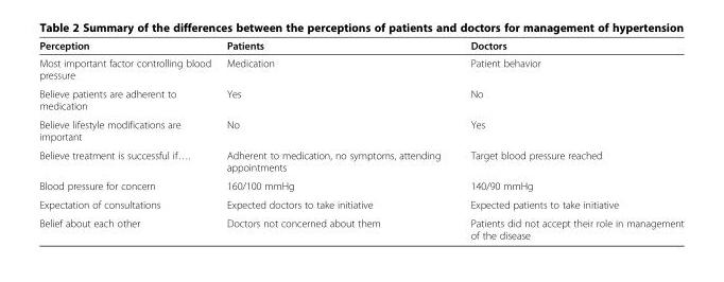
<table><thead><tr><td>Perception</td><td>Patients</td><td>Doctors</td></tr></thead><tbody><tr><td>Most important factor controlling blood pressure</td><td>Medication</td><td>Patient behavior</td></tr><tr><td>Believe patients are adherent to medication</td><td>Yes</td><td>No</td></tr><tr><td>Believe lifestyle modifications are important</td><td>No</td><td>Yes</td></tr><tr><td>Believe treatment is successful if….</td><td>Adherent to medication, no symptoms, attending appointments</td><td>Target blood pressure reached</td></tr><tr><td>Blood pressure for concern</td><td>160/100 mmHg</td><td>140/90 mmHg</td></tr><tr><td>Expectation of consultations</td><td>Expected doctors to take initiative</td><td>Expected patients to take initiative</td></tr><tr><td>Belief about each other</td><td>Doctors not concerned about them</td><td>Patients did not accept their role in management of the disease</td></tr></tbody></table>